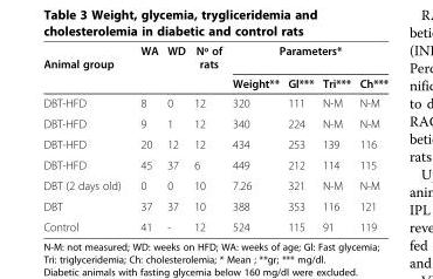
<table><thead><tr><td rowspan="2">Animal group</td><td rowspan="2">WA</td><td rowspan="2">WD</td><td rowspan="2">Nº of rats</td><td colspan="4">Parameters*</td></tr><tr><td>Weight**</td><td>Gl***</td><td>Tri***</td><td>Ch***</td></tr></thead><tbody><tr><td>DBT-HFD</td><td>8</td><td>0</td><td>12</td><td>320</td><td>111</td><td>N-M</td><td>N-M</td></tr><tr><td>DBT-HFD</td><td>9</td><td>1</td><td>12</td><td>340</td><td>224</td><td>N-M</td><td>N-M</td></tr><tr><td>DBT-HFD</td><td>20</td><td>12</td><td>12</td><td>434</td><td>253</td><td>139</td><td>116</td></tr><tr><td>DBT-HFD</td><td>45</td><td>37</td><td>6</td><td>449</td><td>212</td><td>114</td><td>115</td></tr><tr><td>DBT (2 days old)</td><td>0</td><td>0</td><td>10</td><td>7.26</td><td>321</td><td>N-M</td><td>N-M</td></tr><tr><td>DBT</td><td>37</td><td>37</td><td>10</td><td>388</td><td>353</td><td>116</td><td>121</td></tr><tr><td>Control</td><td>41</td><td>-</td><td>12</td><td>524</td><td>115</td><td>91</td><td>119</td></tr></tbody></table>